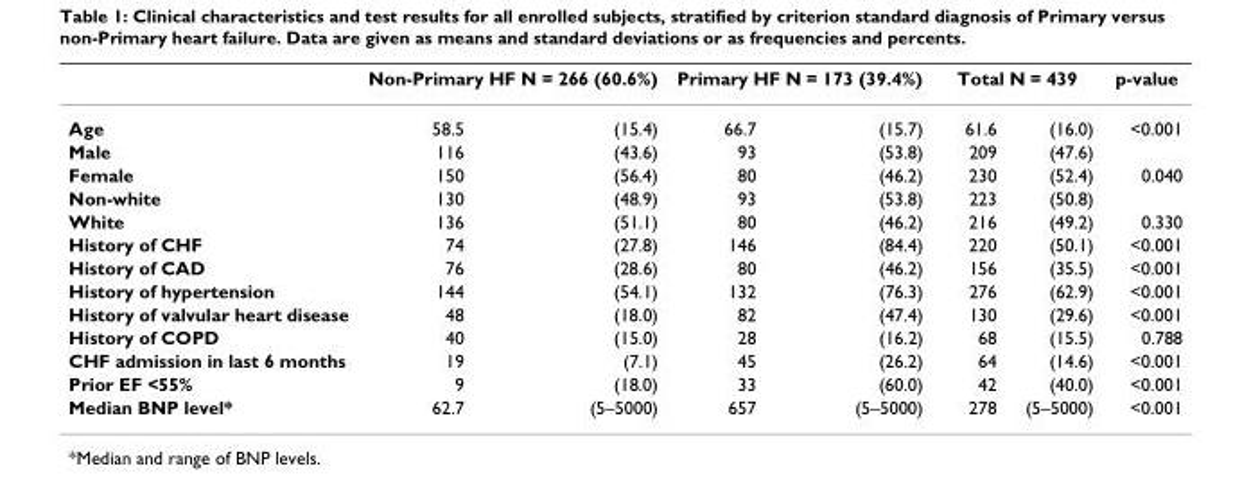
<table><thead><tr><td rowspan="2">Age</td><td colspan="2">Non-Primary HF N = 266 (60.6%)</td><td colspan="2">Primary HF N = 173 (39.4%)</td><td colspan="2">Total N = 439</td><td rowspan="2">p-value &lt;0.001</td></tr><tr><td>58.5</td><td>(15.4)</td><td>66.7</td><td>(15.7)</td><td>61.6</td><td>(16.0)</td></tr></thead><tbody><tr><td>Male</td><td>116</td><td>(43.6)</td><td>93</td><td>(53.8)</td><td>209</td><td>(47.6)</td><td></td></tr><tr><td>Female</td><td>150</td><td>(56.4)</td><td>80</td><td>(46.2)</td><td>230</td><td>(52.4)</td><td>0.040</td></tr><tr><td>Non-white</td><td>130</td><td>(48.9)</td><td>93</td><td>(53.8)</td><td>223</td><td>(50.8)</td><td></td></tr><tr><td>White</td><td>136</td><td>(51.1)</td><td>80</td><td>(46.2)</td><td>216</td><td>(49.2)</td><td>0.330</td></tr><tr><td>History of CHF</td><td>74</td><td>(27.8)</td><td>146</td><td>(84.4)</td><td>220</td><td>(50.1)</td><td>&lt;0.001</td></tr><tr><td>History of CAD</td><td>76</td><td>(28.6)</td><td>80</td><td>(46.2)</td><td>156</td><td>(35.5)</td><td>&lt;0.001</td></tr><tr><td>History of hypertension</td><td>144</td><td>(54.1)</td><td>132</td><td>(76.3)</td><td>276</td><td>(62.9)</td><td>&lt;0.001</td></tr><tr><td>History of valvular heart disease</td><td>48</td><td>(18.0)</td><td>82</td><td>(47.4)</td><td>130</td><td>(29.6)</td><td>&lt;0.001</td></tr><tr><td>History of COPD</td><td>40</td><td>(15.0)</td><td>28</td><td>(16.2)</td><td>68</td><td>(15.5)</td><td>0.788</td></tr><tr><td>CHF admission in last 6 months</td><td>19</td><td>(7.1)</td><td>45</td><td>(26.2)</td><td>64</td><td>(14.6)</td><td>&lt;0.001</td></tr><tr><td>Prior EF &lt;55%</td><td>9</td><td>(18.0)</td><td>33</td><td>(60.0)</td><td>42</td><td>(40.0)</td><td>&lt;0.001</td></tr><tr><td>Median BNP level*</td><td>62.7</td><td>(5–5000)</td><td>657</td><td>(5–5000)</td><td>278</td><td>(5–5000)</td><td>&lt;0.001</td></tr></tbody></table>